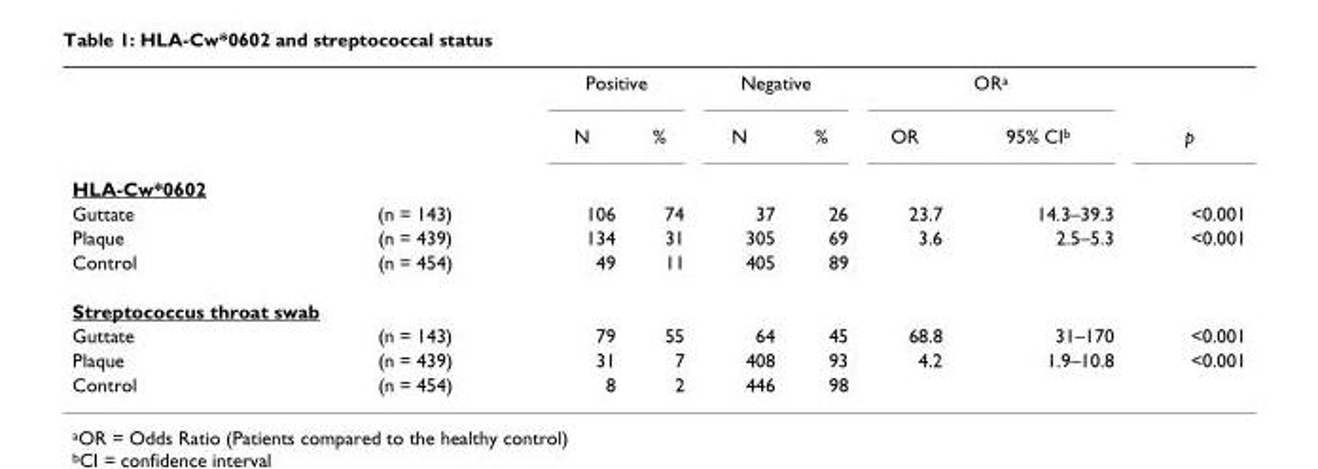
<table><thead><tr><td rowspan="2"></td><td rowspan="2"></td><td colspan="2">Positive</td><td colspan="2">Negative</td><td colspan="2">OR<sup>a</sup></td><td rowspan="2">p</td></tr><tr><td>N</td><td>%</td><td>N</td><td>%</td><td>OR</td><td>95% CI<sup>b</sup></td></tr></thead><tbody><tr><td colspan="9">HLA-Cw*0602</td></tr><tr><td>Guttate</td><td>(n = 143)</td><td>106</td><td>74</td><td>37</td><td>26</td><td>23.7</td><td>14.3–39.3</td><td>&lt;0.001</td></tr><tr><td>Plaque</td><td>(n = 439)</td><td>134</td><td>31</td><td>305</td><td>69</td><td>3.6</td><td>2.5–5.3</td><td>&lt;0.001</td></tr><tr><td>Control</td><td>(n = 454)</td><td>49</td><td>11</td><td>405</td><td>89</td><td></td><td></td><td></td></tr><tr><td colspan="9">Streptococcus throat swab</td></tr><tr><td>Guttate</td><td>(n = 143)</td><td>79</td><td>55</td><td>64</td><td>45</td><td>68.8</td><td>31–170</td><td>&lt;0.001</td></tr><tr><td>Plaque</td><td>(n = 439)</td><td>31</td><td>7</td><td>408</td><td>93</td><td>4.2</td><td>1.9–10.8</td><td>&lt;0.001</td></tr><tr><td>Control</td><td>(n = 454)</td><td>8</td><td>2</td><td>446</td><td>98</td><td></td><td></td><td></td></tr></tbody></table>